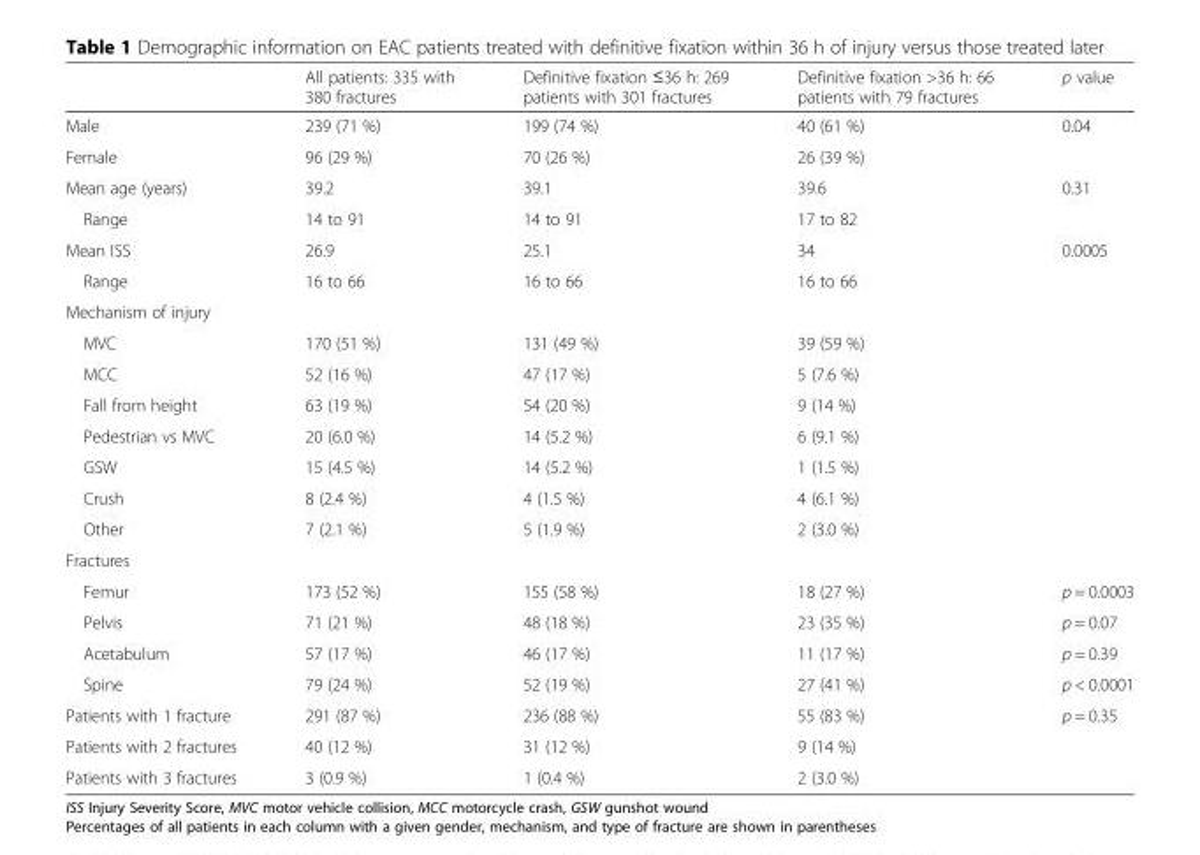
<table><thead><tr><td></td><td>All patients: 335 with 380 fractures</td><td>Definitive fixation ≤36 h: 269 patients with 301 fractures</td><td>Definitive fixation &gt;36 h: 66 patients with 79 fractures</td><td>p value</td></tr></thead><tbody><tr><td>Male</td><td>239 (71 %)</td><td>199 (74 %)</td><td>40 (61 %)</td><td>0.04</td></tr><tr><td>Female</td><td>96 (29 %)</td><td>70 (26 %)</td><td>26 (39 %)</td><td></td></tr><tr><td>Mean age (years)</td><td>39.2</td><td>39.1</td><td>39.6</td><td>0.31</td></tr><tr><td>Range</td><td>14 to 91</td><td>14 to 91</td><td>17 to 82</td><td></td></tr><tr><td>Mean ISS</td><td>26.9</td><td>25.1</td><td>34</td><td>0.0005</td></tr><tr><td>Range</td><td>16 to 66</td><td>16 to 66</td><td>16 to 66</td><td></td></tr><tr><td colspan="5">Mechanism of injury</td></tr><tr><td>MVC</td><td>170 (51 %)</td><td>131 (49 %)</td><td>39 (59 %)</td><td></td></tr><tr><td>MCC</td><td>52 (16 %)</td><td>47 (17 %)</td><td>5 (7.6 %)</td><td></td></tr><tr><td>Fall from height</td><td>63 (19 %)</td><td>54 (20 %)</td><td>9 (14 %)</td><td></td></tr><tr><td>Pedestrian vs MVC</td><td>20 (6.0 %)</td><td>14 (5.2 %)</td><td>6 (9.1 %)</td><td></td></tr><tr><td>GSW</td><td>15 (4.5 %)</td><td>14 (5.2 %)</td><td>1 (1.5 %)</td><td></td></tr><tr><td>Crush</td><td>8 (2.4 %)</td><td>4 (1.5 %)</td><td>4 (6.1 %)</td><td></td></tr><tr><td>Other</td><td>7 (2.1 %)</td><td>5 (1.9 %)</td><td>2 (3.0 %)</td><td></td></tr><tr><td colspan="5">Fractures</td></tr><tr><td>Femur</td><td>173 (52 %)</td><td>155 (58 %)</td><td>18 (27 %)</td><td>p = 0.0003</td></tr><tr><td>Pelvis</td><td>71 (21 %)</td><td>48 (18 %)</td><td>23 (35 %)</td><td>p = 0.07</td></tr><tr><td>Acetabulum</td><td>57 (17 %)</td><td>46 (17 %)</td><td>11 (17 %)</td><td>p = 0.39</td></tr><tr><td>Spine</td><td>79 (24 %)</td><td>52 (19 %)</td><td>27 (41 %)</td><td>p &lt; 0.0001</td></tr><tr><td>Patients with 1 fracture</td><td>291 (87 %)</td><td>236 (88 %)</td><td>55 (83 %)</td><td>p = 0.35</td></tr><tr><td>Patients with 2 fractures</td><td>40 (12 %)</td><td>31 (12 %)</td><td>9 (14 %)</td><td></td></tr><tr><td>Patients with 3 fractures</td><td>3 (0.9 %)</td><td>1 (0.4 %)</td><td>2 (3.0 %)</td><td></td></tr></tbody></table>